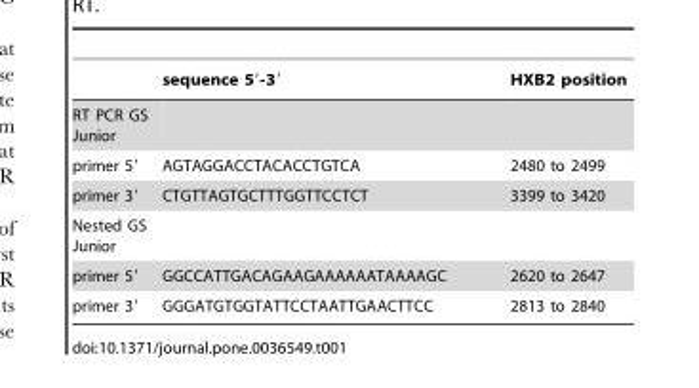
<table><thead><tr><td></td><td>sequence 5′-3′</td><td>HXB2 position</td></tr></thead><tbody><tr><td colspan="3">RT PCR GS Junior</td></tr><tr><td>primer 5′</td><td>AGTAGGACCTACACCTGTCA</td><td>2480 to 2499</td></tr><tr><td>primer 3′</td><td>CTGTTAGTGCTTTGGTTCCTCT</td><td>3399 to 3420</td></tr><tr><td colspan="3">Nested GS Junior</td></tr><tr><td>primer 5′</td><td>GGCCATTGACAGAAGAAAAAATAAAAGC</td><td>2620 to 2647</td></tr><tr><td>primer 3′</td><td>GGGATGTGGTATTCCTAATTGAACTTCC</td><td>2813 to 2840</td></tr></tbody></table>